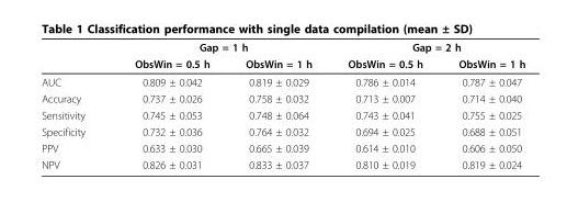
<table><thead><tr><td rowspan="2"></td><td colspan="2">Gap = 1 h</td><td colspan="2">Gap = 2 h</td></tr><tr><td>ObsWin = 0.5 h</td><td>ObsWin = 1 h</td><td>ObsWin = 0.5 h</td><td>ObsWin = 1 h</td></tr></thead><tbody><tr><td>AUC</td><td>0.809 ± 0.042</td><td>0.819 ± 0.029</td><td>0.786 ± 0.014</td><td>0.787 ± 0.047</td></tr><tr><td>Accuracy</td><td>0.737 ± 0.026</td><td>0.758 ± 0.032</td><td>0.713 ± 0.007</td><td>0.714 ± 0.040</td></tr><tr><td>Sensitivity</td><td>0.745 ± 0.053</td><td>0.748 ± 0.064</td><td>0.743 ± 0.041</td><td>0.755 ± 0.025</td></tr><tr><td>Specificity</td><td>0.732 ± 0.036</td><td>0.764 ± 0.032</td><td>0.694 ± 0.025</td><td>0.688 ± 0.051</td></tr><tr><td>PPV</td><td>0.633 ± 0.030</td><td>0.665 ± 0.039</td><td>0.614 ± 0.010</td><td>0.606 ± 0.050</td></tr><tr><td>NPV</td><td>0.826 ± 0.031</td><td>0.833 ± 0.037</td><td>0.810 ± 0.019</td><td>0.819 ± 0.024</td></tr></tbody></table>